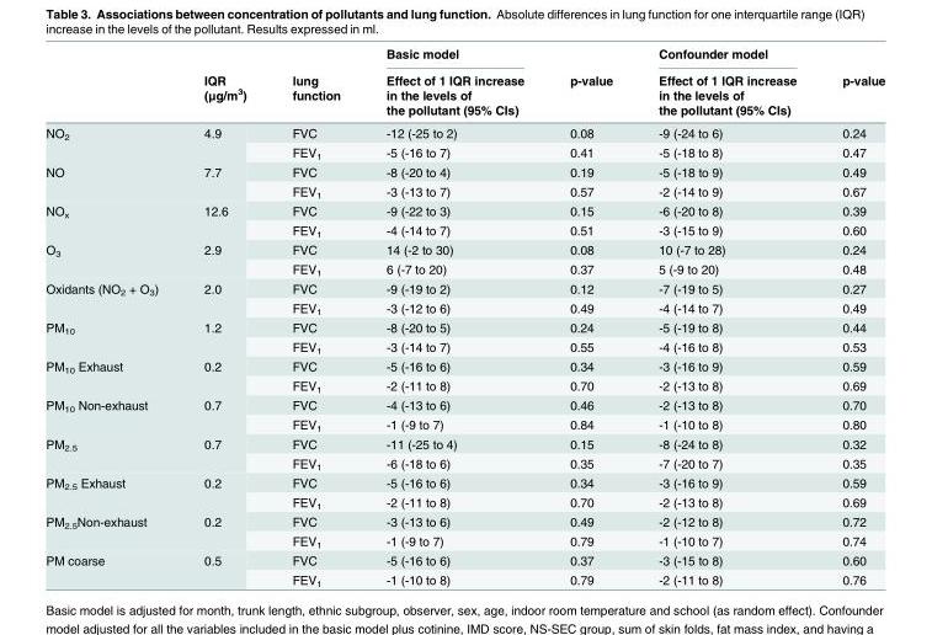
<table><thead><tr><td rowspan="2"></td><td rowspan="2">IQR (μg/m<sup>3</sup>)</td><td rowspan="2">lung function</td><td rowspan="2">Basic model Effect of 1 IQR increase in the levels of the pollutant (95% CIs)</td><td rowspan="2">p-value</td><td rowspan="2">Confounder model Effect of 1 IQR increase in the levels of the pollutant (95% CIs)</td><td rowspan="2">p-value</td></tr><tr></tr></thead><tbody><tr><td rowspan="2">NO<sub>2</sub></td><td rowspan="2">4.9</td><td>FVC</td><td>-12 (-25 to 2)</td><td>0.08</td><td>-9 (-24 to 6)</td><td>0.24</td></tr><tr><td>FEV<sub>1</sub></td><td>-5 (-16 to 7)</td><td>0.41</td><td>-5 (-18 to 8)</td><td>0.47</td></tr><tr><td rowspan="2">NO</td><td rowspan="2">7.7</td><td>FVC</td><td>-8 (-20 to 4)</td><td>0.19</td><td>-5 (-18 to 9)</td><td>0.49</td></tr><tr><td>FEV<sub>1</sub></td><td>-3 (-13 to 7)</td><td>0.57</td><td>-2 (-14 to 9)</td><td>0.67</td></tr><tr><td rowspan="2">NO<sub>x</sub></td><td rowspan="2">12.6</td><td>FVC</td><td>-9 (-22 to 3)</td><td>0.15</td><td>-6 (-20 to 8)</td><td>0.39</td></tr><tr><td>FEV<sub>1</sub></td><td>-4 (-14 to 7)</td><td>0.51</td><td>-3 (-15 to 9)</td><td>0.60</td></tr><tr><td rowspan="2">O<sub>3</sub></td><td rowspan="2">2.9</td><td>FVC</td><td>14 (-2 to 30)</td><td>0.08</td><td>10 (-7 to 28)</td><td>0.24</td></tr><tr><td>FEV<sub>1</sub></td><td>6 (-7 to 20)</td><td>0.37</td><td>5 (-9 to 20)</td><td>0.48</td></tr><tr><td rowspan="2">Oxidants (NO<sub>2</sub> + O<sub>3</sub>)</td><td rowspan="2">2.0</td><td>FVC</td><td>-9 (-19 to 2)</td><td>0.12</td><td>-7 (-19 to 5)</td><td>0.27</td></tr><tr><td>FEV<sub>1</sub></td><td>-3 (-12 to 6)</td><td>0.49</td><td>-4 (-14 to 7)</td><td>0.49</td></tr><tr><td rowspan="2">PM<sub>10</sub></td><td rowspan="2">1.2</td><td>FVC</td><td>-8 (-20 to 5)</td><td>0.24</td><td>-5 (-19 to 8)</td><td>0.44</td></tr><tr><td>FEV<sub>1</sub></td><td>-3 (-14 to 7)</td><td>0.55</td><td>-4 (-16 to 8)</td><td>0.53</td></tr><tr><td rowspan="2">PM<sub>10</sub> Exhaust</td><td rowspan="2">0.2</td><td>FVC</td><td>-5 (-16 to 6)</td><td>0.34</td><td>-3 (-16 to 9)</td><td>0.59</td></tr><tr><td>FEV<sub>1</sub></td><td>-2 (-11 to 8)</td><td>0.70</td><td>-2 (-13 to 8)</td><td>0.69</td></tr><tr><td rowspan="2">PM<sub>10</sub> Non-exhaust</td><td rowspan="2">0.7</td><td>FVC</td><td>-4 (-13 to 6)</td><td>0.46</td><td>-2 (-13 to 8)</td><td>0.70</td></tr><tr><td>FEV<sub>1</sub></td><td>-1 (-9 to 7)</td><td>0.84</td><td>-1 (-10 to 8)</td><td>0.80</td></tr><tr><td rowspan="2">PM<sub>2.5</sub></td><td rowspan="2">0.7</td><td>FVC</td><td>-11 (-25 to 4)</td><td>0.15</td><td>-8 (-24 to 8)</td><td>0.32</td></tr><tr><td>FEV<sub>1</sub></td><td>-6 (-18 to 6)</td><td>0.35</td><td>-7 (-20 to 7)</td><td>0.35</td></tr><tr><td rowspan="2">PM<sub>2.5</sub> Exhaust</td><td rowspan="2">0.2</td><td>FVC</td><td>-5 (-16 to 6)</td><td>0.34</td><td>-3 (-16 to 9)</td><td>0.59</td></tr><tr><td>FEV<sub>1</sub></td><td>-2 (-11 to 8)</td><td>0.70</td><td>-2 (-13 to 8)</td><td>0.69</td></tr><tr><td rowspan="2">PM<sub>2.5</sub>Non-exhaust</td><td rowspan="2">0.2</td><td>FVC</td><td>-3 (-13 to 6)</td><td>0.49</td><td>-2 (-12 to 8)</td><td>0.72</td></tr><tr><td>FEV<sub>1</sub></td><td>-1 (-9 to 7)</td><td>0.79</td><td>-1 (-10 to 7)</td><td>0.74</td></tr><tr><td rowspan="2">PM coarse</td><td rowspan="2">0.5</td><td>FVC</td><td>-5 (-16 to 6)</td><td>0.37</td><td>-3 (-15 to 8)</td><td>0.60</td></tr><tr><td>FEV<sub>1</sub></td><td>-1 (-10 to 8)</td><td>0.79</td><td>-2 (-11 to 8)</td><td>0.76</td></tr></tbody></table>